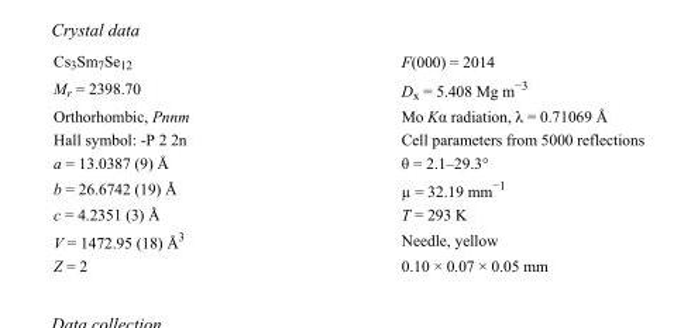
<table><tbody><tr><td>Cs<sub>3</sub>Sm<sub>7</sub>Se<sub>12</sub></td><td>F(000) = 2014</td></tr><tr><td>M<sub>r</sub> = 2398.70</td><td>D<sub>x</sub> = 5.408 Mg m<sup>−3</sup></td></tr><tr><td>Orthorhombic, Pnnm</td><td>Mo Kα radiation, λ = 0.71069 Å</td></tr><tr><td>Hall symbol: -P 2 2n</td><td>Cell parameters from 5000 reflections</td></tr><tr><td>a = 13.0387 (9) Å</td><td>θ = 2.1–29.3°</td></tr><tr><td>b = 26.6742 (19) Å</td><td>µ = 32.19 mm<sup>−1</sup></td></tr><tr><td>c = 4.2351 (3) Å</td><td>T = 293 K</td></tr><tr><td>V = 1472.95 (18) Å<sup>3</sup></td><td>Needle, yellow</td></tr><tr><td>Z = 2</td><td>0.10 × 0.07 × 0.05 mm</td></tr></tbody></table>